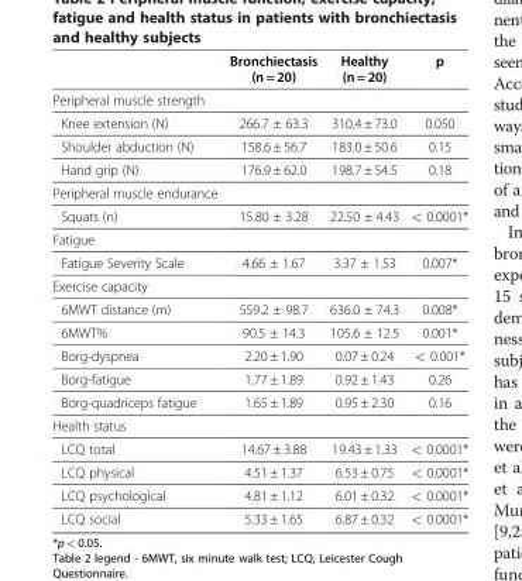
<table><thead><tr><td></td><td>Bronchiectasis (n = 20)</td><td>Healthy (n = 20)</td><td>p</td></tr></thead><tbody><tr><td colspan="4">Peripheral muscle strength</td></tr><tr><td>Knee extension (N)</td><td>266.7 ± 63.3</td><td>310.4 ± 73.0</td><td>0.050</td></tr><tr><td>Shoulder abduction (N)</td><td>158.6 ± 56.7</td><td>183.0 ± 50.6</td><td>0.15</td></tr><tr><td>Hand grip (N)</td><td>176.9 ± 62.0</td><td>198.7 ± 54.5</td><td>0.18</td></tr><tr><td colspan="4">Peripheral muscle endurance</td></tr><tr><td>Squats (n)</td><td>15.80 ± 3.28</td><td>22.50 ± 4.43</td><td>&lt; 0.0001*</td></tr><tr><td colspan="4">Fatigue</td></tr><tr><td>Fatigue Severity Scale</td><td>4.66 ± 1.67</td><td>3.37 ± 1.53</td><td>0.007*</td></tr><tr><td colspan="4">Exercise capacity</td></tr><tr><td>6MWT distance (m)</td><td>559.2 ± 98.7</td><td>636.0 ± 74.3</td><td>0.008*</td></tr><tr><td>6MWT%</td><td>90.5 ± 14.3</td><td>105.6 ± 12.5</td><td>0.001*</td></tr><tr><td>Borg-dyspnea</td><td>2.20 ± 1.90</td><td>0.07 ± 0.24</td><td>&lt; 0.001*</td></tr><tr><td>Borg-fatigue</td><td>1.77 ± 1.89</td><td>0.92 ± 1.43</td><td>0.26</td></tr><tr><td>Borg-quadriceps fatigue</td><td>1.65 ± 1.89</td><td>0.95 ± 2.30</td><td>0.16</td></tr><tr><td colspan="4">Health status</td></tr><tr><td>LCQ total</td><td>14.67 ± 3.88</td><td>19.43 ± 1.33</td><td>&lt; 0.0001*</td></tr><tr><td>LCQ physical</td><td>4.51 ± 1.37</td><td>6.53 ± 0.75</td><td>&lt; 0.0001*</td></tr><tr><td>LCQ psychological</td><td>4.81 ± 1.12</td><td>6.01 ± 0.32</td><td>&lt; 0.0001*</td></tr><tr><td>LCQ social</td><td>5.33 ± 1.65</td><td>6.87 ± 0.32</td><td>&lt; 0.0001*</td></tr></tbody></table>